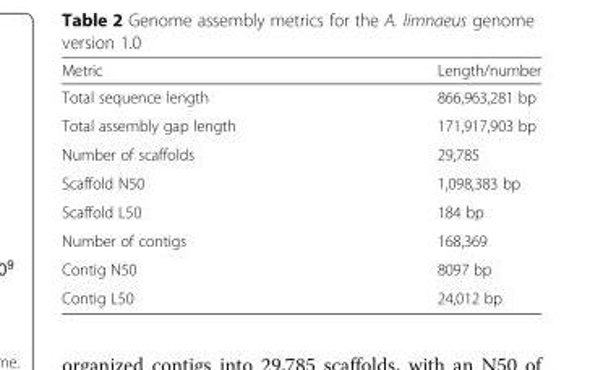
<table><thead><tr><td>Metric</td><td>Length/number</td></tr></thead><tbody><tr><td>Total sequence length</td><td>866,963,281 bp</td></tr><tr><td>Total assembly gap length</td><td>171,917,903 bp</td></tr><tr><td>Number of scaffolds</td><td>29,785</td></tr><tr><td>Scaffold N50</td><td>1,098,383 bp</td></tr><tr><td>Scaffold L50</td><td>184 bp</td></tr><tr><td>Number of contigs</td><td>168,369</td></tr><tr><td>Contig N50</td><td>8097 bp</td></tr><tr><td>Contig L50</td><td>24,012 bp</td></tr></tbody></table>